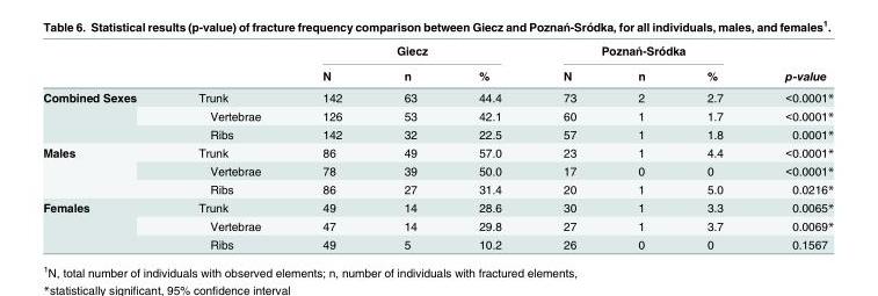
<table><thead><tr><td rowspan="2"></td><td rowspan="2"></td><td colspan="3">Giecz</td><td colspan="3">Poznań-Sródka</td><td rowspan="2">p-value</td></tr><tr><td>N</td><td>n</td><td>%</td><td>N</td><td>n</td><td>%</td></tr></thead><tbody><tr><td rowspan="3">Combined Sexes</td><td>Trunk</td><td>142</td><td>63</td><td>44.4</td><td>73</td><td>2</td><td>2.7</td><td>&lt;0.0001*</td></tr><tr><td>Vertebrae</td><td>126</td><td>53</td><td>42.1</td><td>60</td><td>1</td><td>1.7</td><td>&lt;0.0001*</td></tr><tr><td>Ribs</td><td>142</td><td>32</td><td>22.5</td><td>57</td><td>1</td><td>1.8</td><td>0.0001*</td></tr><tr><td rowspan="3">Males</td><td>Trunk</td><td>86</td><td>49</td><td>57.0</td><td>23</td><td>1</td><td>4.4</td><td>&lt;0.0001*</td></tr><tr><td>Vertebrae</td><td>78</td><td>39</td><td>50.0</td><td>17</td><td>0</td><td>0</td><td>&lt;0.0001*</td></tr><tr><td>Ribs</td><td>86</td><td>27</td><td>31.4</td><td>20</td><td>1</td><td>5.0</td><td>0.0216*</td></tr><tr><td rowspan="3">Females</td><td>Trunk</td><td>49</td><td>14</td><td>28.6</td><td>30</td><td>1</td><td>3.3</td><td>0.0065*</td></tr><tr><td>Vertebrae</td><td>47</td><td>14</td><td>29.8</td><td>27</td><td>1</td><td>3.7</td><td>0.0069*</td></tr><tr><td>Ribs</td><td>49</td><td>5</td><td>10.2</td><td>26</td><td>0</td><td>0</td><td>0.1567</td></tr></tbody></table>